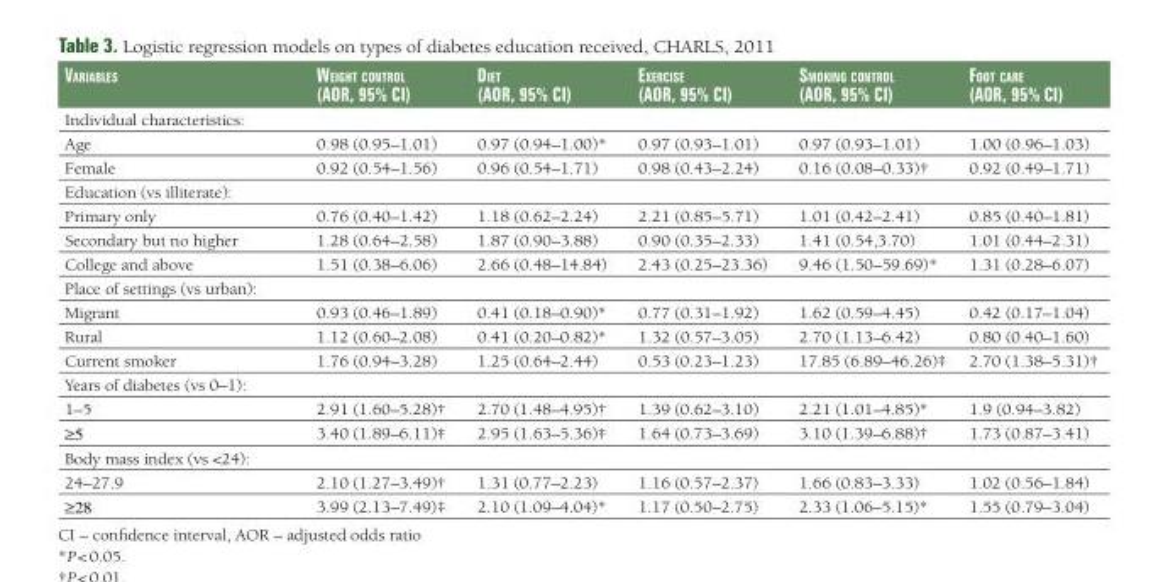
<table><thead><tr><td>Variables</td><td>Weight control (aor, 95% ci)</td><td>Diet (aor, 95% ci)</td><td>exercise (aor, 95% ci)</td><td>smoking control (aor, 95% ci)</td><td>Foot care (aor, 95% ci)</td></tr></thead><tbody><tr><td colspan="6">Individual characteristics:</td></tr><tr><td>Age</td><td>0.98 (0.95–1.01)</td><td>0.97 (0.94–1.00)*</td><td>0.97 (0.93–1.01)</td><td>0.97 (0.93–1.01)</td><td>1.00 (0.96–1.03)</td></tr><tr><td>Female</td><td>0.92 (0.54–1.56)</td><td>0.96 (0.54–1.71)</td><td>0.98 (0.43–2.24)</td><td>0.16 (0.08–0.33)†</td><td>0.92 (0.49–1.71)</td></tr><tr><td colspan="6">Education (vs illiterate):</td></tr><tr><td>Primary only</td><td>0.76 (0.40–1.42)</td><td>1.18 (0.62–2.24)</td><td>2.21 (0.85–5.71)</td><td>1.01 (0.42–2.41)</td><td>0.85 (0.40–1.81)</td></tr><tr><td>Secondary but no higher</td><td>1.28 (0.64–2.58)</td><td>1.87 (0.90–3.88)</td><td>0.90 (0.35–2.33)</td><td>1.41 (0.54,3.70)</td><td>1.01 (0.44–2.31)</td></tr><tr><td>College and above</td><td>1.51 (0.38–6.06)</td><td>2.66 (0.48–14.84)</td><td>2.43 (0.25–23.36)</td><td>9.46 (1.50–59.69)*</td><td>1.31 (0.28–6.07)</td></tr><tr><td colspan="6">Place of settings (vs urban):</td></tr><tr><td>Migrant</td><td>0.93 (0.46–1.89)</td><td>0.41 (0.18–0.90)*</td><td>0.77 (0.31–1.92)</td><td>1.62 (0.59–4.45)</td><td>0.42 (0.17–1.04)</td></tr><tr><td>Rural</td><td>1.12 (0.60–2.08)</td><td>0.41 (0.20–0.82)*</td><td>1.32 (0.57–3.05)</td><td>2.70 (1.13–6.42)</td><td>0.80 (0.40–1.60)</td></tr><tr><td>Current smoker</td><td>1.76 (0.94–3.28)</td><td>1.25 (0.64–2.44)</td><td>0.53 (0.23–1.23)</td><td>17.85 (6.89–46.26)‡</td><td>2.70 (1.38–5.31)†</td></tr><tr><td colspan="6">Years of diabetes (vs 0–1):</td></tr><tr><td>1–5</td><td>2.91 (1.60–5.28)†</td><td>2.70 (1.48–4.95)†</td><td>1.39 (0.62–3.10)</td><td>2.21 (1.01–4.85)*</td><td>1.9 (0.94–3.82)</td></tr><tr><td>≥5</td><td>3.40 (1.89–6.11)‡</td><td>2.95 (1.63–5.36)‡</td><td>1.64 (0.73–3.69)</td><td>3.10 (1.39–6.88)†</td><td>1.73 (0.87–3.41)</td></tr><tr><td colspan="6">Body mass index (vs &lt;24):</td></tr><tr><td>24–27.9</td><td>2.10 (1.27–3.49)†</td><td>1.31 (0.77–2.23)</td><td>1.16 (0.57–2.37)</td><td>1.66 (0.83–3.33)</td><td>1.02 (0.56–1.84)</td></tr><tr><td>≥28</td><td>3.99 (2.13–7.49)‡</td><td>2.10 (1.09–4.04)*</td><td>1.17 (0.50–2.75)</td><td>2.33 (1.06–5.15)*</td><td>1.55 (0.79–3.04)</td></tr></tbody></table>